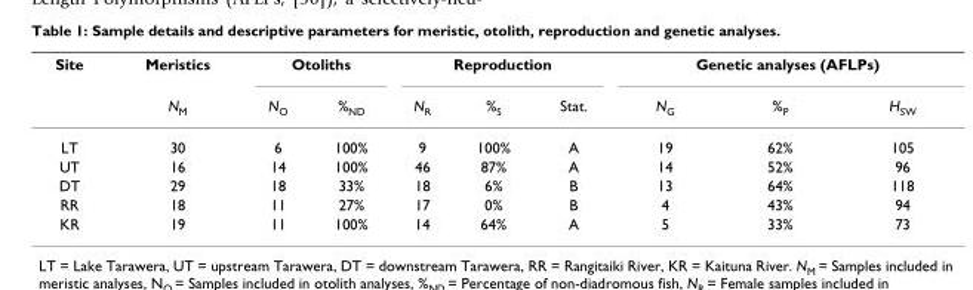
<table><thead><tr><td rowspan="2">Site</td><td rowspan="2">Meristics N<sub>M</sub></td><td colspan="2">Otoliths</td><td colspan="3">Reproduction</td><td colspan="3">Genetic analyses (AFLPs)</td></tr><tr><td>N<sub>O</sub></td><td>%<sub>ND</sub></td><td>N<sub>R</sub></td><td>%<sub>S</sub></td><td>Stat.</td><td>N<sub>G</sub></td><td>%<sub>P</sub></td><td>H<sub>SW</sub></td></tr></thead><tbody><tr><td>LT</td><td>30</td><td>6</td><td>100%</td><td>9</td><td>100%</td><td>A</td><td>19</td><td>62%</td><td>105</td></tr><tr><td>UT</td><td>16</td><td>14</td><td>100%</td><td>46</td><td>87%</td><td>A</td><td>14</td><td>52%</td><td>96</td></tr><tr><td>DT</td><td>29</td><td>18</td><td>33%</td><td>18</td><td>6%</td><td>B</td><td>13</td><td>64%</td><td>118</td></tr><tr><td>RR</td><td>18</td><td>11</td><td>27%</td><td>17</td><td>0%</td><td>B</td><td>4</td><td>43%</td><td>94</td></tr><tr><td>KR</td><td>19</td><td>11</td><td>100%</td><td>14</td><td>64%</td><td>A</td><td>5</td><td>33%</td><td>73</td></tr></tbody></table>